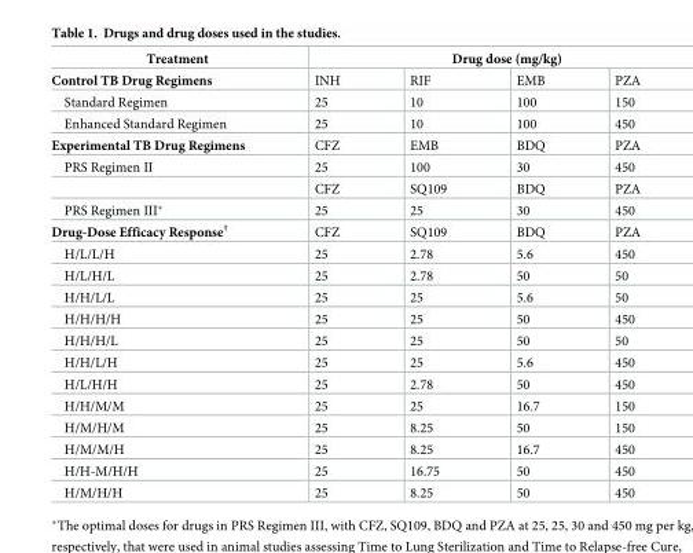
<table><thead><tr><td rowspan="2">Treatment Control TB Drug Regimens</td><td colspan="4">Drug dose (mg/kg)</td></tr><tr><td>INH</td><td>RIF</td><td>EMB</td><td>PZA</td></tr></thead><tbody><tr><td>Standard Regimen</td><td>25</td><td>10</td><td>100</td><td>150</td></tr><tr><td>Enhanced Standard Regimen</td><td>25</td><td>10</td><td>100</td><td>450</td></tr><tr><td>Experimental TB Drug Regimens</td><td>CFZ</td><td>EMB</td><td>BDQ</td><td>PZA</td></tr><tr><td rowspan="2">PRS Regimen II</td><td>25</td><td>100</td><td>30</td><td>450</td></tr><tr><td>CFZ</td><td>SQ109</td><td>BDQ</td><td>PZA</td></tr><tr><td>PRS Regimen III*</td><td>25</td><td>25</td><td>30</td><td>450</td></tr><tr><td>Drug-Dose Efficacy Response<sup>†</sup></td><td>CFZ</td><td>SQ109</td><td>BDQ</td><td>PZA</td></tr><tr><td>H/L/L/H</td><td>25</td><td>2.78</td><td>5.6</td><td>450</td></tr><tr><td>H/L/H/L</td><td>25</td><td>2.78</td><td>50</td><td>50</td></tr><tr><td>H/H/L/L</td><td>25</td><td>25</td><td>5.6</td><td>50</td></tr><tr><td>H/H/H/H</td><td>25</td><td>25</td><td>50</td><td>450</td></tr><tr><td>H/H/H/L</td><td>25</td><td>25</td><td>50</td><td>50</td></tr><tr><td>H/H/L/H</td><td>25</td><td>25</td><td>5.6</td><td>450</td></tr><tr><td>H/L/H/H</td><td>25</td><td>2.78</td><td>50</td><td>450</td></tr><tr><td>H/H/M/M</td><td>25</td><td>25</td><td>16.7</td><td>150</td></tr><tr><td>H/M/H/M</td><td>25</td><td>8.25</td><td>50</td><td>150</td></tr><tr><td>H/M/M/H</td><td>25</td><td>8.25</td><td>16.7</td><td>450</td></tr><tr><td>H/H-M/H/H</td><td>25</td><td>16.75</td><td>50</td><td>450</td></tr><tr><td>H/M/H/H</td><td>25</td><td>8.25</td><td>50</td><td>450</td></tr></tbody></table>